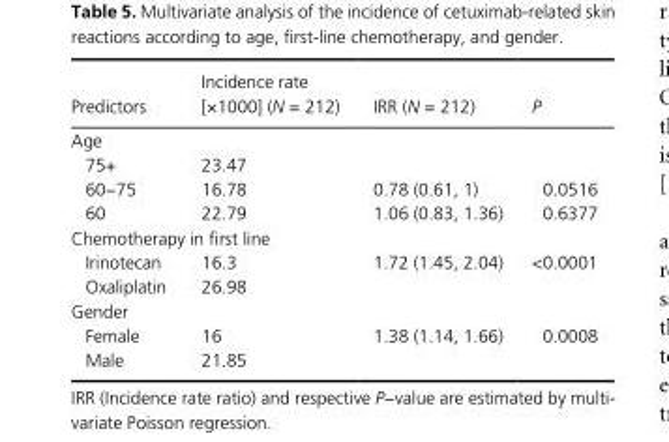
<table><thead><tr><td>Predictors</td><td>Incidence rate [×1000] (N = 212)</td><td>IRR (N = 212)</td><td>P</td></tr></thead><tbody><tr><td colspan="4">Age</td></tr><tr><td>75+</td><td>23.47</td><td></td><td></td></tr><tr><td>60−75</td><td>16.78</td><td>0.78 (0.61, 1)</td><td>0.0516</td></tr><tr><td>60</td><td>22.79</td><td>1.06 (0.83, 1.36)</td><td>0.6377</td></tr><tr><td colspan="4">Chemotherapy in first line</td></tr><tr><td>Irinotecan</td><td>16.3</td><td rowspan="2">1.72 (1.45, 2.04)</td><td rowspan="2">&lt;0.0001</td></tr><tr><td>Oxaliplatin</td><td>26.98</td></tr><tr><td colspan="4">Gender</td></tr><tr><td>Female</td><td>16</td><td rowspan="2">1.38 (1.14, 1.66)</td><td rowspan="2">0.0008</td></tr><tr><td>Male</td><td>21.85</td></tr></tbody></table>